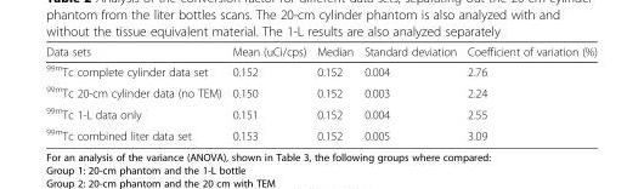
<table><thead><tr><td>Data sets</td><td>Mean (uCi/cps)</td><td>Median</td><td>Standard deviation</td><td>Coefficient of variation (%)</td></tr></thead><tbody><tr><td><sup>99m</sup>Tc complete cylinder data set</td><td>0.152</td><td>0.152</td><td>0.004</td><td>2.76</td></tr><tr><td><sup>99m</sup>Tc 20-cm cylinder data (no TEM)</td><td>0.150</td><td>0.152</td><td>0.003</td><td>2.24</td></tr><tr><td><sup>99m</sup>Tc 1-L data only</td><td>0.151</td><td>0.152</td><td>0.004</td><td>2.55</td></tr><tr><td><sup>99m</sup>Tc combined liter data set</td><td>0.153</td><td>0.152</td><td>0.005</td><td>3.09</td></tr></tbody></table>